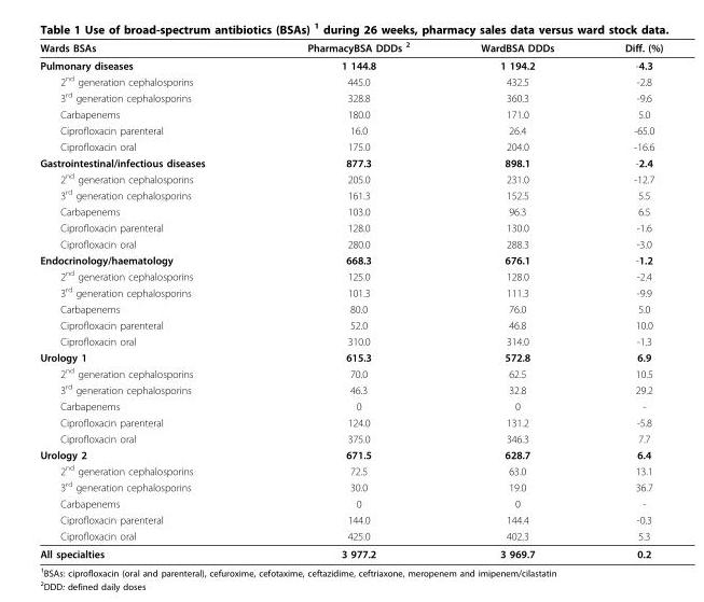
<table><thead><tr><td>Wards BSAs</td><td>PharmacyBSA DDDs <sup>2</sup></td><td>WardBSA DDDs</td><td>Diff. (%)</td></tr></thead><tbody><tr><td>Pulmonary diseases</td><td>1 144.8</td><td>1 194.2</td><td>-4.3</td></tr><tr><td>2<sup>nd</sup> generation cephalosporins</td><td>445.0</td><td>432.5</td><td>-2.8</td></tr><tr><td>3<sup>rd</sup> generation cephalosporins</td><td>328.8</td><td>360.3</td><td>-9.6</td></tr><tr><td>Carbapenems</td><td>180.0</td><td>171.0</td><td>5.0</td></tr><tr><td>Ciprofloxacin parenteral</td><td>16.0</td><td>26.4</td><td>-65.0</td></tr><tr><td>Ciprofloxacin oral</td><td>175.0</td><td>204.0</td><td>-16.6</td></tr><tr><td>Gastrointestinal/infectious diseases</td><td>877.3</td><td>898.1</td><td>-2.4</td></tr><tr><td>2<sup>nd</sup> generation cephalosporins</td><td>205.0</td><td>231.0</td><td>-12.7</td></tr><tr><td>3<sup>rd</sup> generation cephalosporins</td><td>161.3</td><td>152.5</td><td>5.5</td></tr><tr><td>Carbapenems</td><td>103.0</td><td>96.3</td><td>6.5</td></tr><tr><td>Ciprofloxacin parenteral</td><td>128.0</td><td>130.0</td><td>-1.6</td></tr><tr><td>Ciprofloxacin oral</td><td>280.0</td><td>288.3</td><td>-3.0</td></tr><tr><td>Endocrinology/haematology</td><td>668.3</td><td>676.1</td><td>-1.2</td></tr><tr><td>2<sup>nd</sup> generation cephalosporins</td><td>125.0</td><td>128.0</td><td>-2.4</td></tr><tr><td>3<sup>rd</sup> generation cephalosporins</td><td>101.3</td><td>111.3</td><td>-9.9</td></tr><tr><td>Carbapenems</td><td>80.0</td><td>76.0</td><td>5.0</td></tr><tr><td>Ciprofloxacin parenteral</td><td>52.0</td><td>46.8</td><td>10.0</td></tr><tr><td>Ciprofloxacin oral</td><td>310.0</td><td>314.0</td><td>-1.3</td></tr><tr><td>Urology 1</td><td>615.3</td><td>572.8</td><td>6.9</td></tr><tr><td>2<sup>nd</sup> generation cephalosporins</td><td>70.0</td><td>62.5</td><td>10.5</td></tr><tr><td>3<sup>rd</sup> generation cephalosporins</td><td>46.3</td><td>32.8</td><td>29.2</td></tr><tr><td>Carbapenems</td><td>0</td><td>0</td><td>-</td></tr><tr><td>Ciprofloxacin parenteral</td><td>124.0</td><td>131.2</td><td>-5.8</td></tr><tr><td>Ciprofloxacin oral</td><td>375.0</td><td>346.3</td><td>7.7</td></tr><tr><td>Urology 2</td><td>671.5</td><td>628.7</td><td>6.4</td></tr><tr><td>2<sup>nd</sup> generation cephalosporins</td><td>72.5</td><td>63.0</td><td>13.1</td></tr><tr><td>3<sup>rd</sup> generation cephalosporins</td><td>30.0</td><td>19.0</td><td>36.7</td></tr><tr><td>Carbapenems</td><td>0</td><td>0</td><td>-</td></tr><tr><td>Ciprofloxacin parenteral</td><td>144.0</td><td>144.4</td><td>-0.3</td></tr><tr><td>Ciprofloxacin oral</td><td>425.0</td><td>402.3</td><td>5.3</td></tr><tr><td>All specialties</td><td>3 977.2</td><td>3 969.7</td><td>0.2</td></tr></tbody></table>